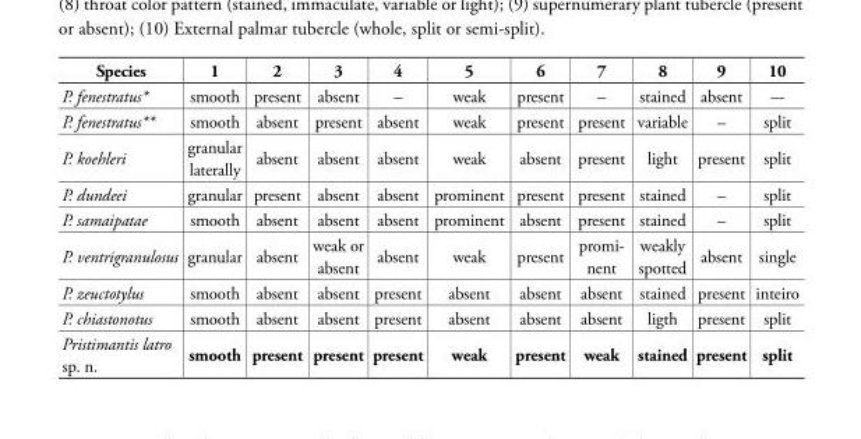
<table><thead><tr><td>Species</td><td>1</td><td>2</td><td>3</td><td>4</td><td>5</td><td>6</td><td>7</td><td>8</td><td>9</td><td>10</td></tr></thead><tbody><tr><td>P. fenestratus*</td><td>smooth</td><td>present</td><td>absent</td><td>–</td><td>weak</td><td>present</td><td>–</td><td>stained</td><td>absent</td><td>–-</td></tr><tr><td>P. fenestratus**</td><td>smooth</td><td>absent</td><td>present</td><td>absent</td><td>weak</td><td>present</td><td>present</td><td>variable</td><td>–</td><td>split</td></tr><tr><td>P. koehleri</td><td>granular laterally</td><td>absent</td><td>absent</td><td>absent</td><td>weak</td><td>absent</td><td>present</td><td>light</td><td>present</td><td>split</td></tr><tr><td>P. dundeei</td><td>granular</td><td>present</td><td>absent</td><td>absent</td><td>prominent</td><td>present</td><td>present</td><td>stained</td><td>–</td><td>split</td></tr><tr><td>P. samaipatae</td><td>smooth</td><td>absent</td><td>absent</td><td>absent</td><td>prominent</td><td>absent</td><td>present</td><td>stained</td><td>–</td><td>split</td></tr><tr><td>P. ventrigranulosus</td><td>granular</td><td>absent</td><td>weak or absent</td><td>absent</td><td>weak</td><td>present</td><td>promi- nent</td><td>weakly spotted</td><td>absent</td><td>single</td></tr><tr><td>P. zeuctotylus</td><td>smooth</td><td>absent</td><td>absent</td><td>present</td><td>absent</td><td>absent</td><td>absent</td><td>stained</td><td>present</td><td>inteiro</td></tr><tr><td>P. chiastonotus</td><td>smooth</td><td>absent</td><td>absent</td><td>present</td><td>absent</td><td>absent</td><td>absent</td><td>ligth</td><td>present</td><td>split</td></tr><tr><td>Pristimantis latro sp. n.</td><td>smooth</td><td>present</td><td>present</td><td>present</td><td>weak</td><td>present</td><td>weak</td><td>stained</td><td>present</td><td>split</td></tr></tbody></table>